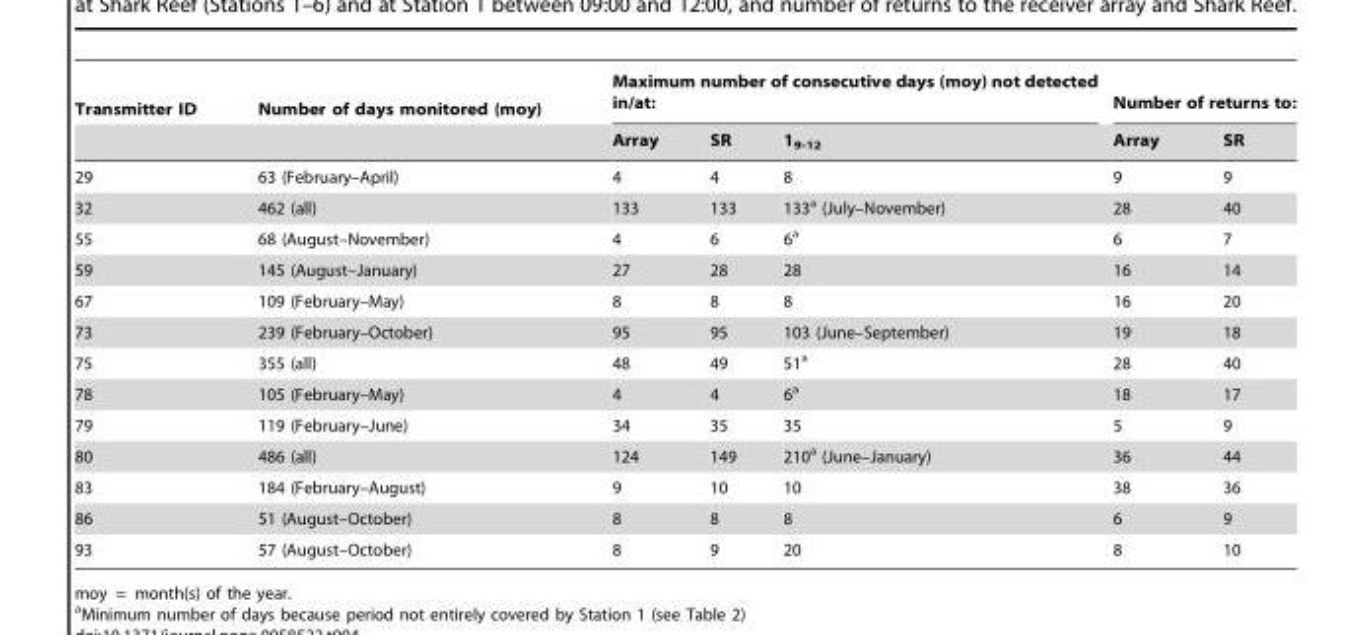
<table><thead><tr><td rowspan="2">Transmitter ID</td><td rowspan="2">Number of days monitored (moy)</td><td colspan="3">Maximum number of consecutive days (moy) not detected in/at:</td><td colspan="2">Number of returns to:</td></tr><tr><td>Array</td><td>SR</td><td>1<sub>9-12</sub></td><td>Array</td><td>SR</td></tr></thead><tbody><tr><td>29</td><td>63 (February–April)</td><td>4</td><td>4</td><td>8</td><td>9</td><td>9</td></tr><tr><td>32</td><td>462 (all)</td><td>133</td><td>133</td><td>133<sup>a</sup> (July–November)</td><td>28</td><td>40</td></tr><tr><td>55</td><td>68 (August–November)</td><td>4</td><td>6</td><td>6<sup>a</sup></td><td>6</td><td>7</td></tr><tr><td>59</td><td>145 (August–January)</td><td>27</td><td>28</td><td>28</td><td>16</td><td>14</td></tr><tr><td>67</td><td>109 (February–May)</td><td>8</td><td>8</td><td>8</td><td>16</td><td>20</td></tr><tr><td>73</td><td>239 (February–October)</td><td>95</td><td>95</td><td>103 (June–September)</td><td>19</td><td>18</td></tr><tr><td>75</td><td>355 (all)</td><td>48</td><td>49</td><td>51<sup>a</sup></td><td>28</td><td>40</td></tr><tr><td>78</td><td>105 (February–May)</td><td>4</td><td>4</td><td>6<sup>a</sup></td><td>18</td><td>17</td></tr><tr><td>79</td><td>119 (February–June)</td><td>34</td><td>35</td><td>35</td><td>5</td><td>9</td></tr><tr><td>80</td><td>486 (all)</td><td>124</td><td>149</td><td>210<sup>a</sup> (June–January)</td><td>36</td><td>44</td></tr><tr><td>83</td><td>184 (February–August)</td><td>9</td><td>10</td><td>10</td><td>38</td><td>36</td></tr><tr><td>86</td><td>51 (August–October)</td><td>8</td><td>8</td><td>8</td><td>6</td><td>9</td></tr><tr><td>93</td><td>57 (August–October)</td><td>8</td><td>9</td><td>20</td><td>8</td><td>10</td></tr></tbody></table>